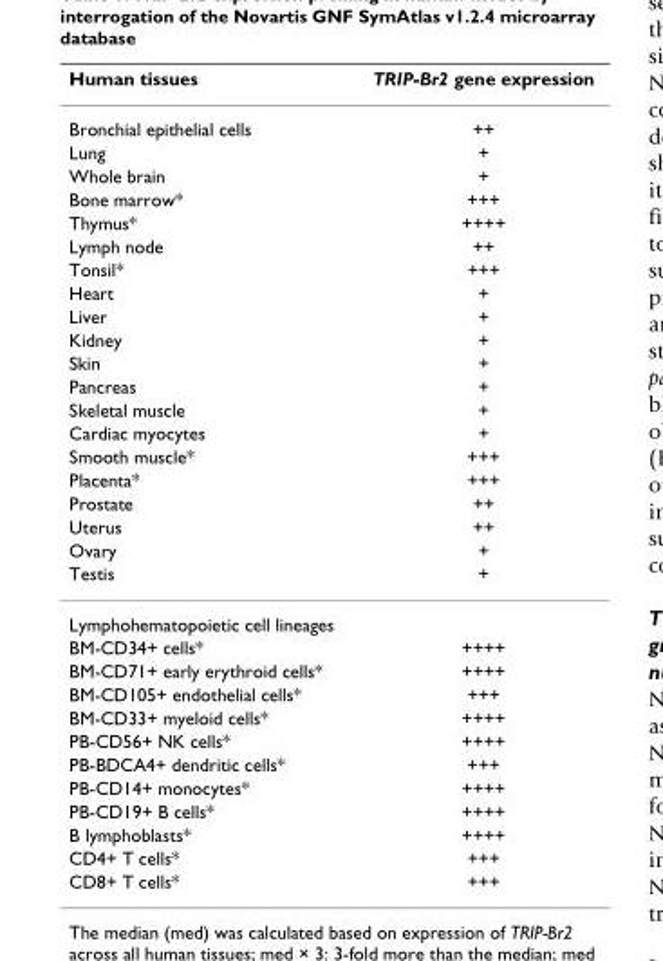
<table><thead><tr><td>Human tissues</td><td>TRIP-Br2 gene expression</td></tr></thead><tbody><tr><td>Bronchial epithelial cells</td><td>++</td></tr><tr><td>Lung</td><td>+</td></tr><tr><td>Whole brain</td><td>+</td></tr><tr><td>Bone marrow*</td><td>+++</td></tr><tr><td>Thymus*</td><td>++++</td></tr><tr><td>Lymph node</td><td>++</td></tr><tr><td>Tonsil*</td><td>+++</td></tr><tr><td>Heart</td><td>+</td></tr><tr><td>Liver</td><td>+</td></tr><tr><td>Kidney</td><td>+</td></tr><tr><td>Skin</td><td>+</td></tr><tr><td>Pancreas</td><td>+</td></tr><tr><td>Skeletal muscle</td><td>+</td></tr><tr><td>Cardiac myocytes</td><td>+</td></tr><tr><td>Smooth muscle*</td><td>+++</td></tr><tr><td>Placenta*</td><td>+++</td></tr><tr><td>Prostate</td><td>++</td></tr><tr><td>Uterus</td><td>++</td></tr><tr><td>Ovary</td><td>+</td></tr><tr><td>Testis</td><td>+</td></tr><tr><td colspan="2">Lymphohematopoietic cell lineages</td></tr><tr><td>BM-CD34+ cells*</td><td>++++</td></tr><tr><td>BM-CD71+ early erythroid cells*</td><td>++++</td></tr><tr><td>BM-CD105+ endothelial cells*</td><td>+++</td></tr><tr><td>BM-CD33+ myeloid cells*</td><td>++++</td></tr><tr><td>PB-CD56+ NK cells*</td><td>++++</td></tr><tr><td>PB-BDCA4+ dendritic cells*</td><td>+++</td></tr><tr><td>PB-CD14+ monocytes*</td><td>++++</td></tr><tr><td>PB-CD19+ B cells*</td><td>++++</td></tr><tr><td>B lymphoblasts*</td><td>++++</td></tr><tr><td>CD4+ T cells*</td><td>+++</td></tr><tr><td>CD8+ T cells*</td><td>+++</td></tr></tbody></table>